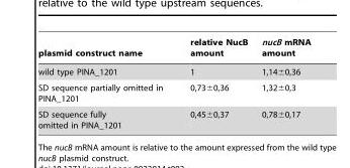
<table><thead><tr><td>plasmid construct name</td><td>relative NucB amount</td><td>nucB mRNA amount</td></tr></thead><tbody><tr><td>wild type PINA_1201</td><td>1</td><td>1,14±0,36</td></tr><tr><td>SD sequence partially omitted in PINA_1201</td><td>0,73±0,36</td><td>1,32±0,3</td></tr><tr><td>SD sequence fully omitted in PINA_1201</td><td>0,45±0,37</td><td>0,78±0,17</td></tr></tbody></table>